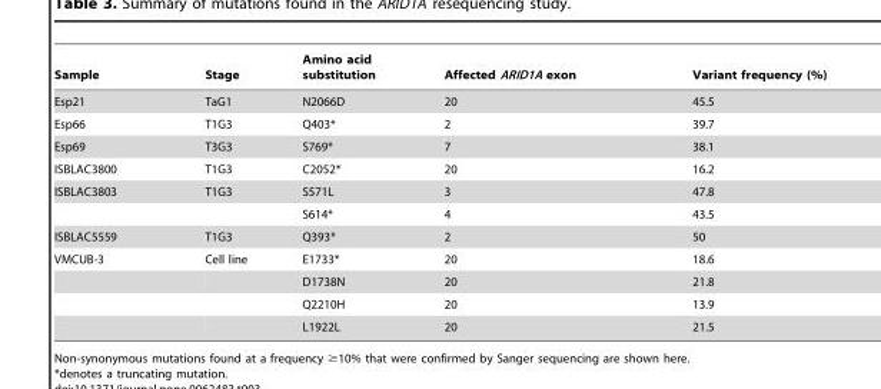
<table><thead><tr><td>Sample</td><td>Stage</td><td>Amino acid substitution</td><td>Affected ARID1A exon</td><td>Variant frequency (%)</td></tr></thead><tbody><tr><td>Esp21</td><td>TaG1</td><td>N2066D</td><td>20</td><td>45.5</td></tr><tr><td>Esp66</td><td>T1G3</td><td>Q403*</td><td>2</td><td>39.7</td></tr><tr><td>Esp69</td><td>T3G3</td><td>S769*</td><td>7</td><td>38.1</td></tr><tr><td>ISBLAC3800</td><td>T1G3</td><td>C2052*</td><td>20</td><td>16.2</td></tr><tr><td rowspan="2">ISBLAC3803</td><td>T1G3</td><td>S571L</td><td>3</td><td>47.8</td></tr><tr><td></td><td>S614*</td><td>4</td><td>43.5</td></tr><tr><td>ISBLAC5559</td><td>T1G3</td><td>Q393*</td><td>2</td><td>50</td></tr><tr><td rowspan="4">VMCUB-3</td><td>Cell line</td><td>E1733*</td><td>20</td><td>18.6</td></tr><tr><td></td><td>D1738N</td><td>20</td><td>21.8</td></tr><tr><td></td><td>Q2210H</td><td>20</td><td>13.9</td></tr><tr><td></td><td>L1922L</td><td>20</td><td>21.5</td></tr></tbody></table>